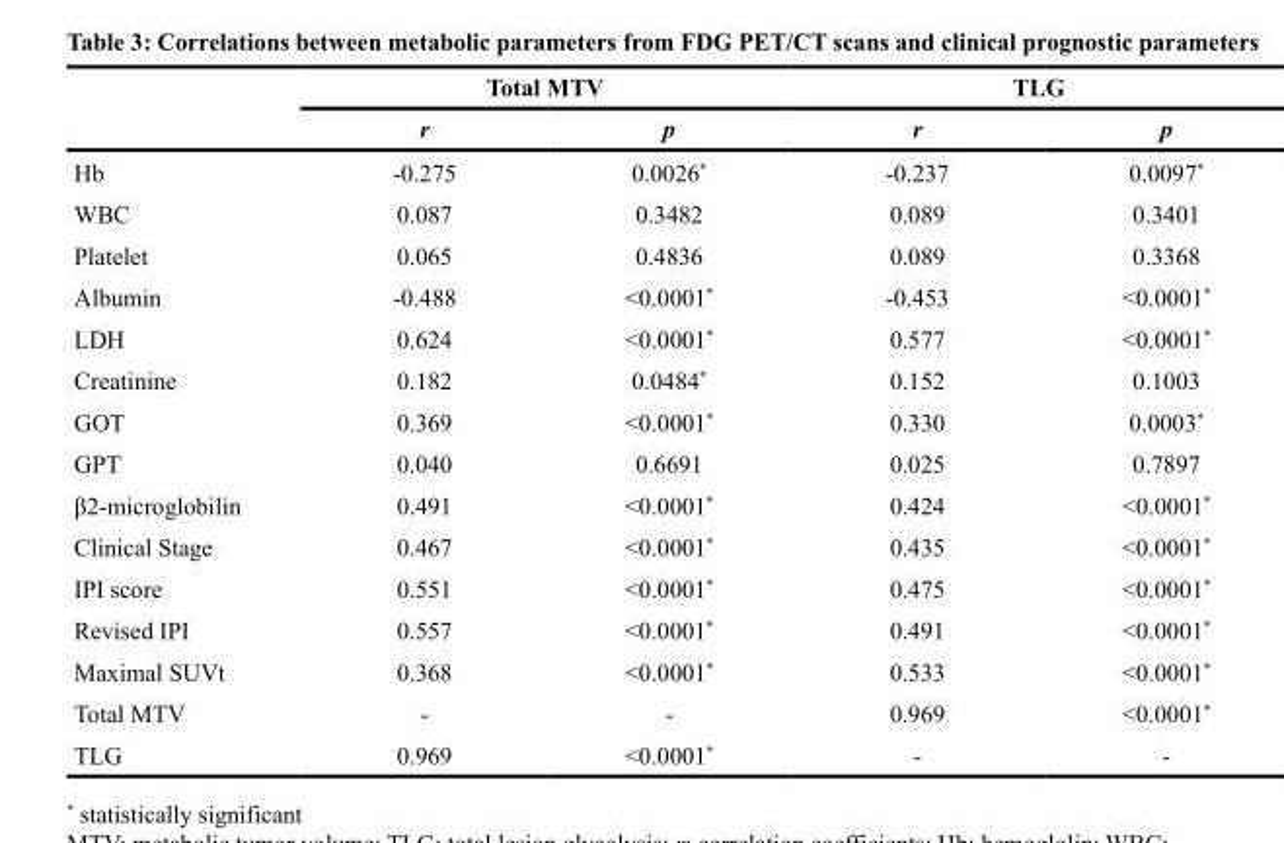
<table><thead><tr><td rowspan="2"></td><td colspan="2">Total MTV</td><td colspan="2">TLG</td></tr><tr><td>r</td><td>p</td><td>r</td><td>p</td></tr></thead><tbody><tr><td>Hb</td><td>-0.275</td><td>0.0026*</td><td>-0.237</td><td>0.0097*</td></tr><tr><td>WBC</td><td>0.087</td><td>0.3482</td><td>0.089</td><td>0.3401</td></tr><tr><td>Platelet</td><td>0.065</td><td>0.4836</td><td>0.089</td><td>0.3368</td></tr><tr><td>Albumin</td><td>-0.488</td><td>&lt;0.0001*</td><td>-0.453</td><td>&lt;0.0001*</td></tr><tr><td>LDH</td><td>0.624</td><td>&lt;0.0001*</td><td>0.577</td><td>&lt;0.0001*</td></tr><tr><td>Creatinine</td><td>0.182</td><td>0.0484*</td><td>0.152</td><td>0.1003</td></tr><tr><td>GOT</td><td>0.369</td><td>&lt;0.0001*</td><td>0.330</td><td>0.0003*</td></tr><tr><td>GPT</td><td>0.040</td><td>0.6691</td><td>0.025</td><td>0.7897</td></tr><tr><td>β2-microglobilin</td><td>0.491</td><td>&lt;0.0001*</td><td>0.424</td><td>&lt;0.0001*</td></tr><tr><td>Clinical Stage</td><td>0.467</td><td>&lt;0.0001*</td><td>0.435</td><td>&lt;0.0001*</td></tr><tr><td>IPI score</td><td>0.551</td><td>&lt;0.0001*</td><td>0.475</td><td>&lt;0.0001*</td></tr><tr><td>Revised IPI</td><td>0.557</td><td>&lt;0.0001*</td><td>0.491</td><td>&lt;0.0001*</td></tr><tr><td>Maximal SUVt</td><td>0.368</td><td>&lt;0.0001*</td><td>0.533</td><td>&lt;0.0001*</td></tr><tr><td>Total MTV</td><td>-</td><td>-</td><td>0.969</td><td>&lt;0.0001*</td></tr><tr><td>TLG</td><td>0.969</td><td>&lt;0.0001*</td><td>-</td><td>-</td></tr></tbody></table>